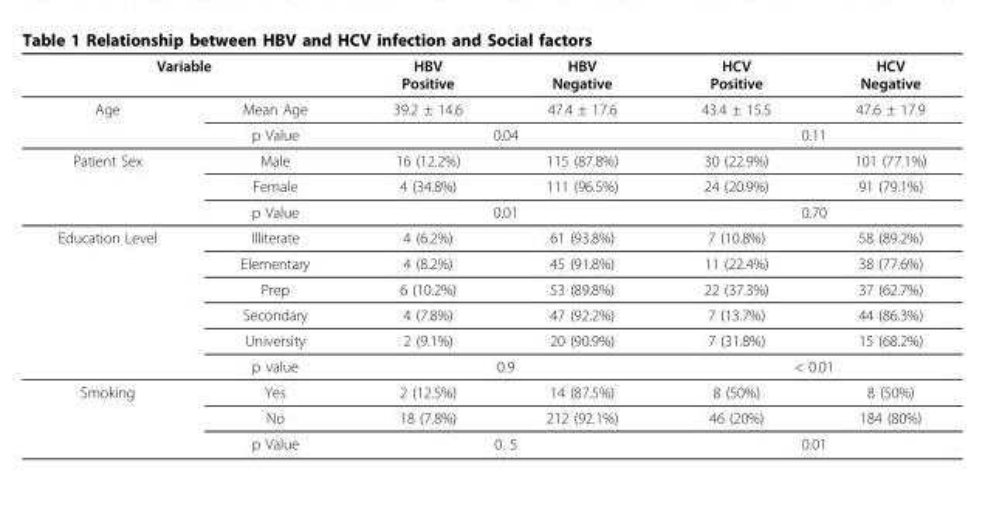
<table><thead><tr><td colspan="2">Variable</td><td rowspan="2">HBV Positive 39.2 ± 14.6</td><td rowspan="2">HBV Negative 47.4 ± 17.6</td><td rowspan="2">HCV Positive 43.4 ± 15.5</td><td rowspan="2">HCV Negative 47.6 ± 17.9</td></tr><tr><td>Age</td><td>Mean Age</td></tr></thead><tbody><tr><td></td><td>p Value</td><td colspan="2">0.04</td><td colspan="2">0.11</td></tr><tr><td rowspan="3">Patient Sex</td><td>Male</td><td>16 (12.2%)</td><td>115 (87.8%)</td><td>30 (22.9%)</td><td>101 (77.1%)</td></tr><tr><td>Female</td><td>4 (34.8%)</td><td>111 (96.5%)</td><td>24 (20.9%)</td><td>91 (79.1%)</td></tr><tr><td>p Value</td><td colspan="2">0.01</td><td colspan="2">0.70</td></tr><tr><td rowspan="6">Education Level</td><td>Illiterate</td><td>4 (6.2%)</td><td>61 (93.8%)</td><td>7 (10.8%)</td><td>58 (89.2%)</td></tr><tr><td>Elementary</td><td>4 (8.2%)</td><td>45 (91.8%)</td><td>11 (22.4%)</td><td>38 (77.6%)</td></tr><tr><td>Prep</td><td>6 (10.2%)</td><td>53 (89.8%)</td><td>22 (37.3%)</td><td>37 (62.7%)</td></tr><tr><td>Secondary</td><td>4 (7.8%)</td><td>47 (92.2%)</td><td>7 (13.7%)</td><td>44 (86.3%)</td></tr><tr><td>University</td><td>2 (9.1%)</td><td>20 (90.9%)</td><td>7 (31.8%)</td><td>15 (68.2%)</td></tr><tr><td>p value</td><td colspan="2">0.9</td><td colspan="2">&lt; 0.01</td></tr><tr><td rowspan="3">Smoking</td><td>Yes</td><td>2 (12.5%)</td><td>14 (87.5%)</td><td>8 (50%)</td><td>8 (50%)</td></tr><tr><td>No</td><td>18 (7.8%)</td><td>212 (92.1%)</td><td>46 (20%)</td><td>184 (80%)</td></tr><tr><td>p Value</td><td colspan="2">0. 5</td><td colspan="2">0.01</td></tr></tbody></table>